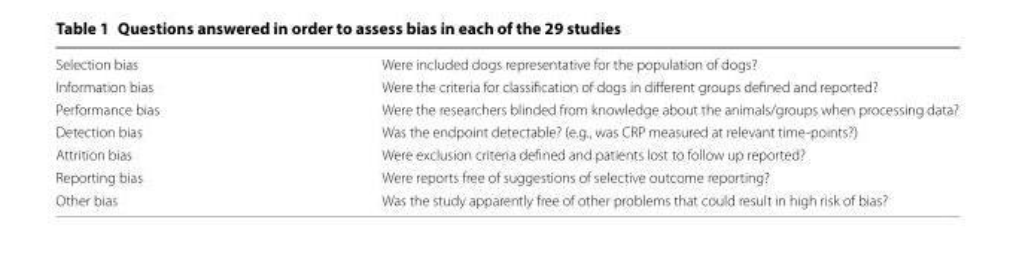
<table><tbody><tr><td>Selection bias</td><td>Were included dogs representative for the population of dogs?</td></tr><tr><td>Information bias</td><td>Were the criteria for classification of dogs in different groups defined and reported?</td></tr><tr><td>Performance bias</td><td>Were the researchers blinded from knowledge about the animals/groups when processing data?</td></tr><tr><td>Detection bias</td><td>Was the endpoint detectable? (e.g., was CRP measured at relevant time‑points?)</td></tr><tr><td>Attrition bias</td><td>Were exclusion criteria defined and patients lost to follow up reported?</td></tr><tr><td>Reporting bias</td><td>Were reports free of suggestions of selective outcome reporting?</td></tr><tr><td>Other bias</td><td>Was the study apparently free of other problems that could result in high risk of bias?</td></tr></tbody></table>